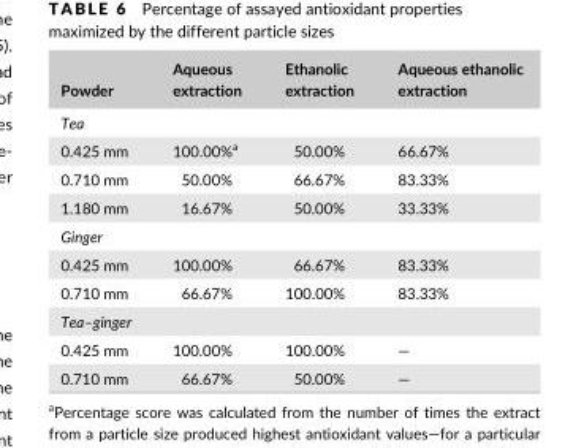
<table><thead><tr><td>Powder</td><td>Aqueous extraction</td><td>Ethanolic extraction</td><td>Aqueous ethanolic extraction</td></tr></thead><tbody><tr><td colspan="4">Tea</td></tr><tr><td>0.425 mm</td><td>100.00%<sup>a</sup></td><td>50.00%</td><td>66.67%</td></tr><tr><td>0.710 mm</td><td>50.00%</td><td>66.67%</td><td>83.33%</td></tr><tr><td>1.180 mm</td><td>16.67%</td><td>50.00%</td><td>33.33%</td></tr><tr><td colspan="4">Ginger</td></tr><tr><td>0.425 mm</td><td>100.00%</td><td>66.67%</td><td>83.33%</td></tr><tr><td>0.710 mm</td><td>66.67%</td><td>100.00%</td><td>83.33%</td></tr><tr><td colspan="4">Tea–ginger</td></tr><tr><td>0.425 mm</td><td>100.00%</td><td>100.00%</td><td>—</td></tr><tr><td>0.710 mm</td><td>66.67%</td><td>50.00%</td><td>—</td></tr></tbody></table>